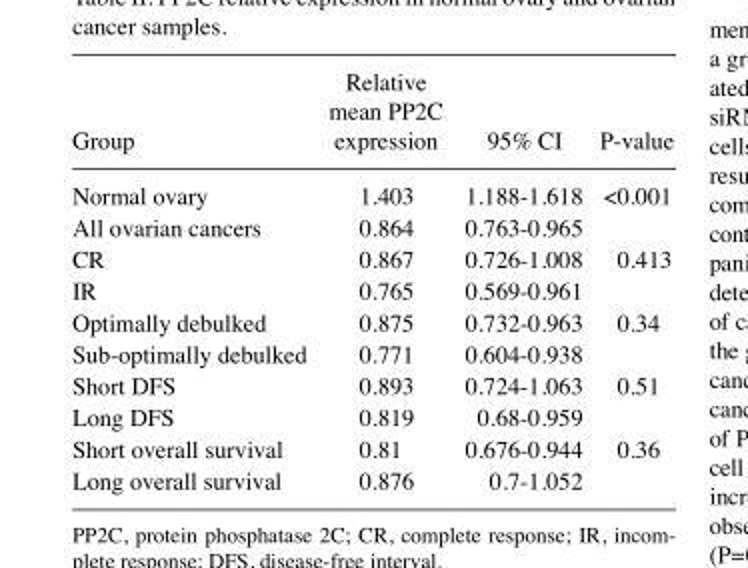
<table><thead><tr><td>Group</td><td>Relative mean PP2C expression</td><td>95% CI</td><td>P-value</td></tr></thead><tbody><tr><td>Normal ovary</td><td>1.403</td><td>1.188-1.618</td><td>&lt;0.001</td></tr><tr><td>All ovarian cancers</td><td>0.864</td><td>0.763-0.965</td><td></td></tr><tr><td>CR</td><td>0.867</td><td>0.726-1.008</td><td>0.413</td></tr><tr><td>IR</td><td>0.765</td><td>0.569-0.961</td><td></td></tr><tr><td>Optimally debulked</td><td>0.875</td><td>0.732-0.963</td><td>0.34</td></tr><tr><td>Sub-optimally debulked</td><td>0.771</td><td>0.604-0.938</td><td></td></tr><tr><td>Short DFS</td><td>0.893</td><td>0.724-1.063</td><td>0.51</td></tr><tr><td>Long DFS</td><td>0.819</td><td>0.68-0.959</td><td></td></tr><tr><td>Short overall survival</td><td>0.81</td><td>0.676-0.944</td><td>0.36</td></tr><tr><td>Long overall survival</td><td>0.876</td><td>0.7-1.052</td><td></td></tr></tbody></table>